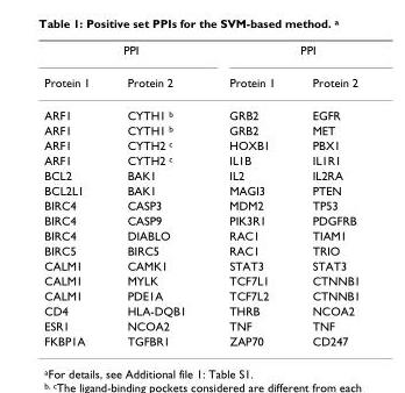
<table><thead><tr><td colspan="2">PPI</td><td colspan="2">PPI</td></tr><tr><td>Protein 1</td><td>Protein 2</td><td>Protein 1</td><td>Protein 2</td></tr></thead><tbody><tr><td>ARF1</td><td>CYTH1 <sup>b</sup></td><td>GRB2</td><td>EGFR</td></tr><tr><td>ARF1</td><td>CYTH1 <sup>b</sup></td><td>GRB2</td><td>MET</td></tr><tr><td>ARF1</td><td>CYTH2 <sup>c</sup></td><td>HOXB1</td><td>PBX1</td></tr><tr><td>ARF1</td><td>CYTH2 <sup>c</sup></td><td>IL1B</td><td>IL1R1</td></tr><tr><td>BCL2</td><td>BAK1</td><td>IL2</td><td>IL2RA</td></tr><tr><td>BCL2L1</td><td>BAK1</td><td>MAGI3</td><td>PTEN</td></tr><tr><td>BIRC4</td><td>CASP3</td><td>MDM2</td><td>TP53</td></tr><tr><td>BIRC4</td><td>CASP9</td><td>PIK3R1</td><td>PDGFRB</td></tr><tr><td>BIRC4</td><td>DIABLO</td><td>RAC1</td><td>TIAM1</td></tr><tr><td>BIRC5</td><td>BIRC5</td><td>RAC1</td><td>TRIO</td></tr><tr><td>CALM1</td><td>CAMK1</td><td>STAT3</td><td>STAT3</td></tr><tr><td>CALM1</td><td>MYLK</td><td>TCF7L1</td><td>CTNNB1</td></tr><tr><td>CALM1</td><td>PDE1A</td><td>TCF7L2</td><td>CTNNB1</td></tr><tr><td>CD4</td><td>HLA-DQB1</td><td>THRB</td><td>NCOA2</td></tr><tr><td>ESR1</td><td>NCOA2</td><td>TNF</td><td>TNF</td></tr><tr><td>FKBP1A</td><td>TGFBR1</td><td>ZAP70</td><td>CD247</td></tr></tbody></table>